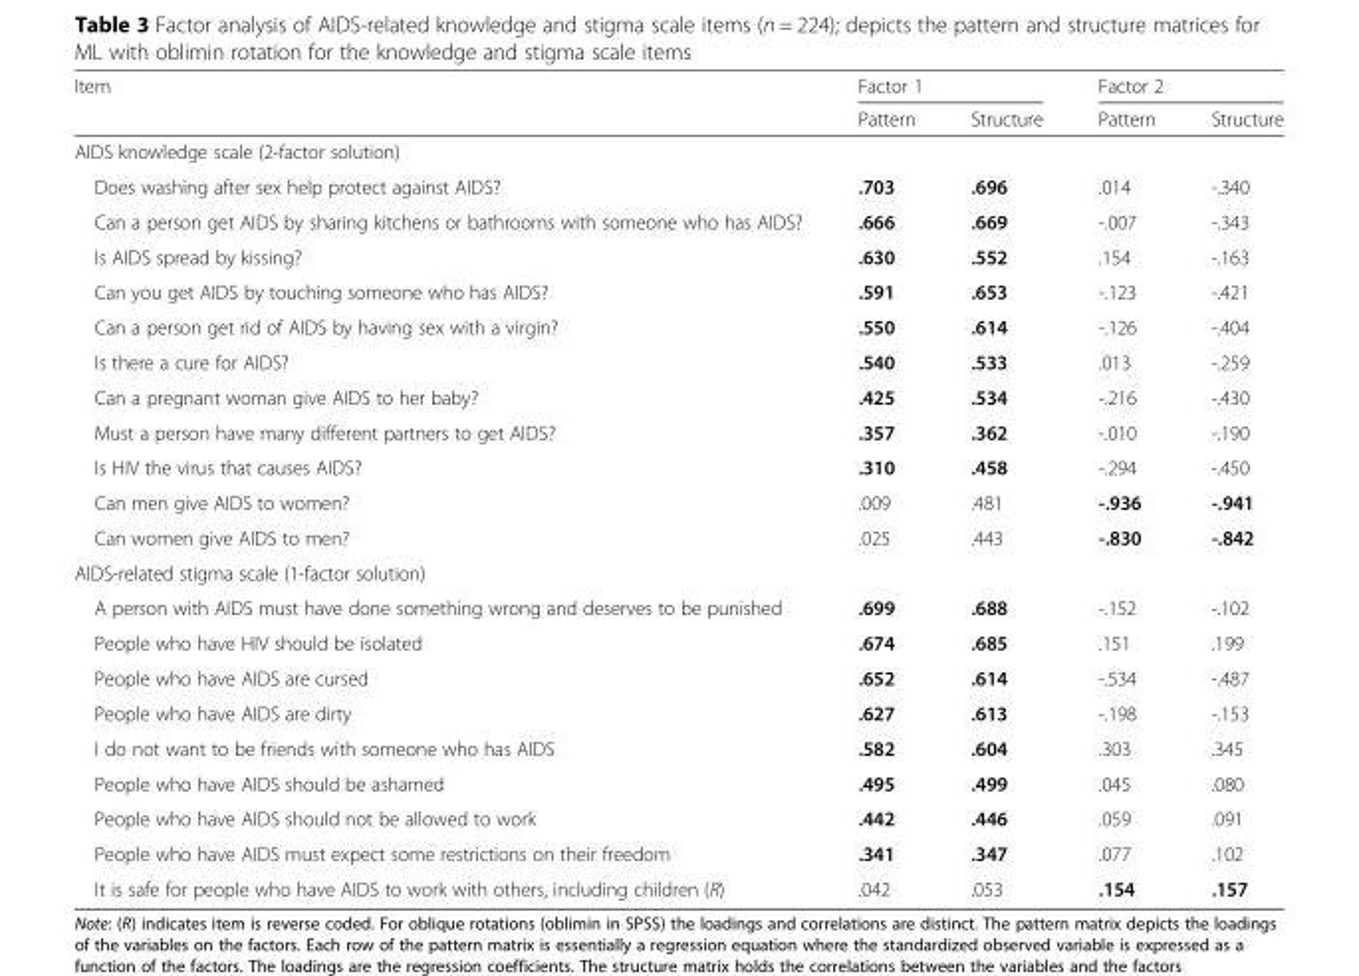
<table><thead><tr><td rowspan="2">Item</td><td colspan="2">Factor 1</td><td colspan="2">Factor 2</td></tr><tr><td>Pattern</td><td>Structure</td><td>Pattern</td><td>Structure</td></tr></thead><tbody><tr><td colspan="5">AIDS knowledge scale (2-factor solution)</td></tr><tr><td>Does washing after sex help protect against AIDS?</td><td>.703</td><td>.696</td><td>.014</td><td>-.340</td></tr><tr><td>Can a person get AIDS by sharing kitchens or bathrooms with someone who has AIDS?</td><td>.666</td><td>.669</td><td>-.007</td><td>-.343</td></tr><tr><td>Is AIDS spread by kissing?</td><td>.630</td><td>.552</td><td>.154</td><td>-.163</td></tr><tr><td>Can you get AIDS by touching someone who has AIDS?</td><td>.591</td><td>.653</td><td>-.123</td><td>-.421</td></tr><tr><td>Can a person get rid of AIDS by having sex with a virgin?</td><td>.550</td><td>.614</td><td>-.126</td><td>-.404</td></tr><tr><td>Is there a cure for AIDS?</td><td>.540</td><td>.533</td><td>.013</td><td>-.259</td></tr><tr><td>Can a pregnant woman give AIDS to her baby?</td><td>.425</td><td>.534</td><td>-.216</td><td>-.430</td></tr><tr><td>Must a person have many different partners to get AIDS?</td><td>.357</td><td>.362</td><td>-.010</td><td>-.190</td></tr><tr><td>Is HIV the virus that causes AIDS?</td><td>.310</td><td>.458</td><td>-.294</td><td>-.450</td></tr><tr><td>Can men give AIDS to women?</td><td>.009</td><td>.481</td><td>-.936</td><td>-.941</td></tr><tr><td>Can women give AIDS to men?</td><td>.025</td><td>.443</td><td>-.830</td><td>-.842</td></tr><tr><td colspan="5">AIDS-related stigma scale (1-factor solution)</td></tr><tr><td>A person with AIDS must have done something wrong and deserves to be punished</td><td>.699</td><td>.688</td><td>-.152</td><td>-.102</td></tr><tr><td>People who have HIV should be isolated</td><td>.674</td><td>.685</td><td>.151</td><td>.199</td></tr><tr><td>People who have AIDS are cursed</td><td>.652</td><td>.614</td><td>-.534</td><td>-.487</td></tr><tr><td>People who have AIDS are dirty</td><td>.627</td><td>.613</td><td>-.198</td><td>-.153</td></tr><tr><td>I do not want to be friends with someone who has AIDS</td><td>.582</td><td>.604</td><td>.303</td><td>.345</td></tr><tr><td>People who have AIDS should be ashamed</td><td>.495</td><td>.499</td><td>.045</td><td>.080</td></tr><tr><td>People who have AIDS should not be allowed to work</td><td>.442</td><td>.446</td><td>.059</td><td>.091</td></tr><tr><td>People who have AIDS must expect some restrictions on their freedom</td><td>.341</td><td>.347</td><td>.077</td><td>.102</td></tr><tr><td>It is safe for people who have AIDS to work with others, including children (R)</td><td>.042</td><td>.053</td><td>.154</td><td>.157</td></tr></tbody></table>